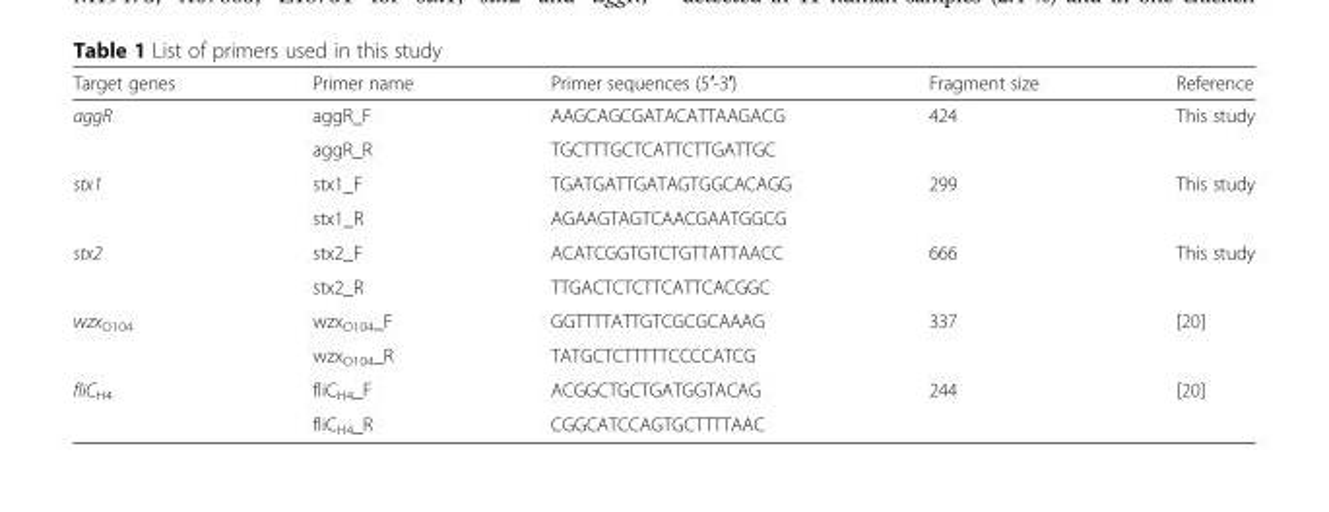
<table><thead><tr><td>Target genes</td><td>Primer name</td><td>Primer sequences (5′-3′)</td><td>Fragment size</td><td>Reference</td></tr></thead><tbody><tr><td rowspan="2">aggR</td><td>aggR_F</td><td>AAGCAGCGATACATTAAGACG</td><td rowspan="2">424</td><td rowspan="2">This study</td></tr><tr><td>aggR_R</td><td>TGCTTTGCTCATTCTTGATTGC</td></tr><tr><td rowspan="2">stx1</td><td>stx1_F</td><td>TGATGATTGATAGTGGCACAGG</td><td rowspan="2">299</td><td rowspan="2">This study</td></tr><tr><td>stx1_R</td><td>AGAAGTAGTCAACGAATGGCG</td></tr><tr><td rowspan="2">stx2</td><td>stx2_F</td><td>ACATCGGTGTCTGTTATTAACC</td><td rowspan="2">666</td><td rowspan="2">This study</td></tr><tr><td>stx2_R</td><td>TTGACTCTCTTCATTCACGGC</td></tr><tr><td rowspan="2">wzx<sub>O104</sub></td><td>wzxO104_F</td><td>GGTTTTATTGTCGCGCAAAG</td><td rowspan="2">337</td><td rowspan="2">[20]</td></tr><tr><td>wzxO104_R</td><td>TATGCTCTTTTTCCCCATCG</td></tr><tr><td rowspan="2">fliC<sub>H4</sub></td><td>fliCH4_F</td><td>ACGGCTGCTGATGGTACAG</td><td rowspan="2">244</td><td rowspan="2">[20]</td></tr><tr><td>fliCH4_R</td><td>CGGCATCCAGTGCTTTTAAC</td></tr></tbody></table>